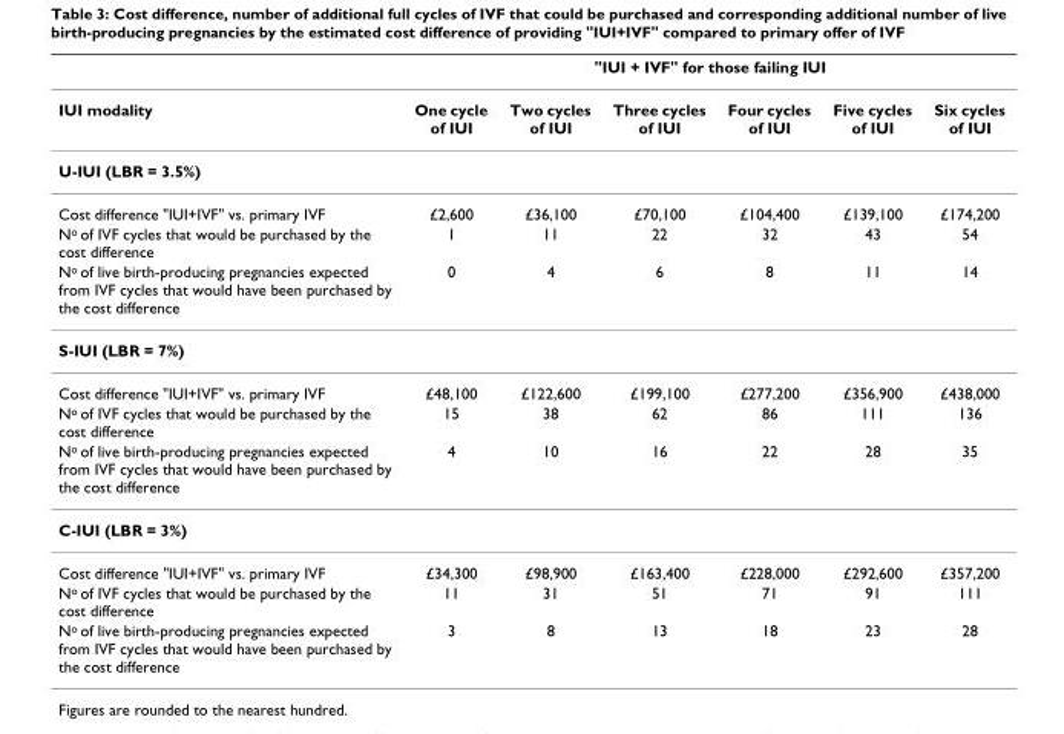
<table><thead><tr><td rowspan="2">IUI modality</td><td colspan="6">&quot;IUI + IVF&quot; for those failing IUI</td></tr><tr><td>One cycle of IUI</td><td>Two cycles of IUI</td><td>Three cycles of IUI</td><td>Four cycles of IUI</td><td>Five cycles of IUI</td><td>Six cycles of IUI</td></tr></thead><tbody><tr><td colspan="7">U-IUI (LBR = 3.5%)</td></tr><tr><td>Cost difference &quot;IUI+IVF&quot; vs. primary IVF</td><td>£2,600</td><td>£36,100</td><td>£70,100</td><td>£104,400</td><td>£139,100</td><td>£174,200</td></tr><tr><td>No of IVF cycles that would be purchased by the cost difference</td><td>1</td><td>11</td><td>22</td><td>32</td><td>43</td><td>54</td></tr><tr><td>No of live birth-producing pregnancies expected from IVF cycles that would have been purchased by the cost difference</td><td>0</td><td>4</td><td>6</td><td>8</td><td>11</td><td>14</td></tr><tr><td colspan="7">S-IUI (LBR = 7%)</td></tr><tr><td>Cost difference &quot;IUI+IVF&quot; vs. primary IVF</td><td>£48,100</td><td>£122,600</td><td>£199,100</td><td>£277,200</td><td>£356,900</td><td>£438,000</td></tr><tr><td>No of IVF cycles that would be purchased by the cost difference</td><td>15</td><td>38</td><td>62</td><td>86</td><td>111</td><td>136</td></tr><tr><td>No of live birth-producing pregnancies expected from IVF cycles that would have been purchased by the cost difference</td><td>4</td><td>10</td><td>16</td><td>22</td><td>28</td><td>35</td></tr><tr><td colspan="7">C-IUI (LBR = 3%)</td></tr><tr><td>Cost difference &quot;IUI+IVF&quot; vs. primary IVF</td><td>£34,300</td><td>£98,900</td><td>£163,400</td><td>£228,000</td><td>£292,600</td><td>£357,200</td></tr><tr><td>No of IVF cycles that would be purchased by the cost difference</td><td>11</td><td>31</td><td>51</td><td>71</td><td>91</td><td>111</td></tr><tr><td>No of live birth-producing pregnancies expected from IVF cycles that would have been purchased by the cost difference</td><td>3</td><td>8</td><td>13</td><td>18</td><td>23</td><td>28</td></tr></tbody></table>